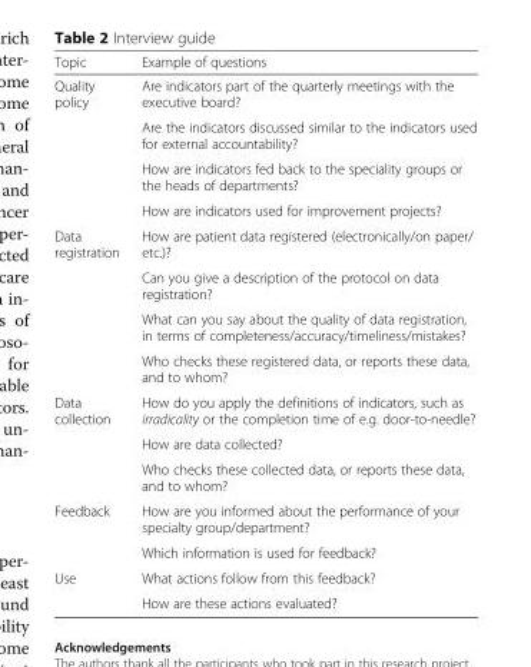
<table><thead><tr><td>Topic</td><td>Example of questions</td></tr></thead><tbody><tr><td rowspan="4">Quality policy</td><td>Are indicators part of the quarterly meetings with the executive board?</td></tr><tr><td>Are the indicators discussed similar to the indicators used for external accountability?</td></tr><tr><td>How are indicators fed back to the speciality groups or the heads of departments?</td></tr><tr><td>How are indicators used for improvement projects?</td></tr><tr><td rowspan="4">Data registration</td><td>How are patient data registered (electronically/on paper/ etc.)?</td></tr><tr><td>Can you give a description of the protocol on data registration?</td></tr><tr><td>What can you say about the quality of data registration, in terms of completeness/accuracy/timeliness/mistakes?</td></tr><tr><td>Who checks these registered data, or reports these data, and to whom?</td></tr><tr><td rowspan="3">Data collection</td><td>How do you apply the definitions of indicators, such as irradicality or the completion time of e.g. door-to-needle?</td></tr><tr><td>How are data collected?</td></tr><tr><td>Who checks these collected data, or reports these data, and to whom?</td></tr><tr><td rowspan="2">Feedback</td><td>How are you informed about the performance of your specialty group/department?</td></tr><tr><td>Which information is used for feedback?</td></tr><tr><td rowspan="2">Use</td><td>What actions follow from this feedback?</td></tr><tr><td>How are these actions evaluated?</td></tr></tbody></table>